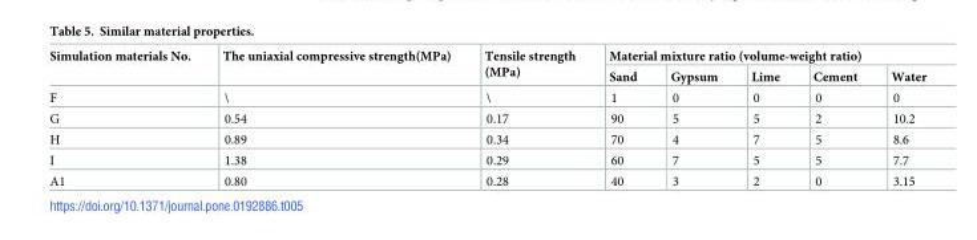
<table><thead><tr><td rowspan="2">Simulation materials No.</td><td rowspan="2">The uniaxial compressive strength(MPa)</td><td rowspan="2">Tensile strength (MPa)</td><td colspan="5">Material mixture ratio (volume-weight ratio)</td></tr><tr><td>Sand</td><td>Gypsum</td><td>Lime</td><td>Cement</td><td>Water</td></tr></thead><tbody><tr><td>F</td><td>\</td><td>\</td><td>1</td><td>0</td><td>0</td><td>0</td><td>0</td></tr><tr><td>G</td><td>0.54</td><td>0.17</td><td>90</td><td>5</td><td>5</td><td>2</td><td>10.2</td></tr><tr><td>H</td><td>0.89</td><td>0.34</td><td>70</td><td>4</td><td>7</td><td>5</td><td>8.6</td></tr><tr><td>I</td><td>1.38</td><td>0.29</td><td>60</td><td>7</td><td>5</td><td>5</td><td>7.7</td></tr><tr><td>A1</td><td>0.80</td><td>0.28</td><td>40</td><td>3</td><td>2</td><td>0</td><td>3.15</td></tr></tbody></table>